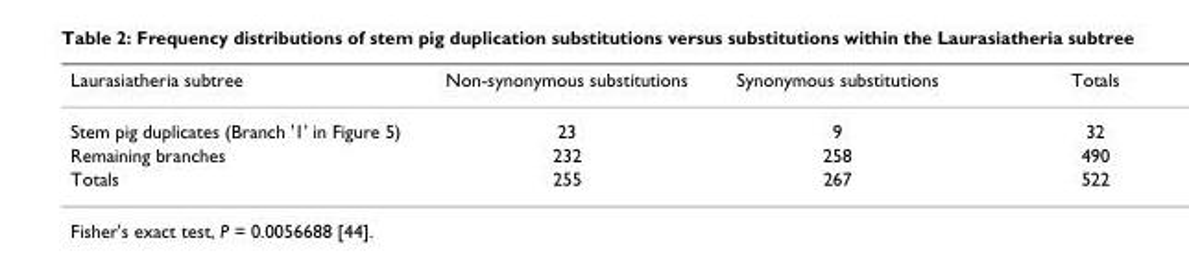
<table><thead><tr><td>Laurasiatheria subtree</td><td>Non-synonymous substitutions</td><td>Synonymous substitutions</td><td>Totals</td></tr></thead><tbody><tr><td>Stem pig duplicates (Branch &#x27;1&#x27; in Figure 5)</td><td>23</td><td>9</td><td>32</td></tr><tr><td>Remaining branches</td><td>232</td><td>258</td><td>490</td></tr><tr><td>Totals</td><td>255</td><td>267</td><td>522</td></tr></tbody></table>